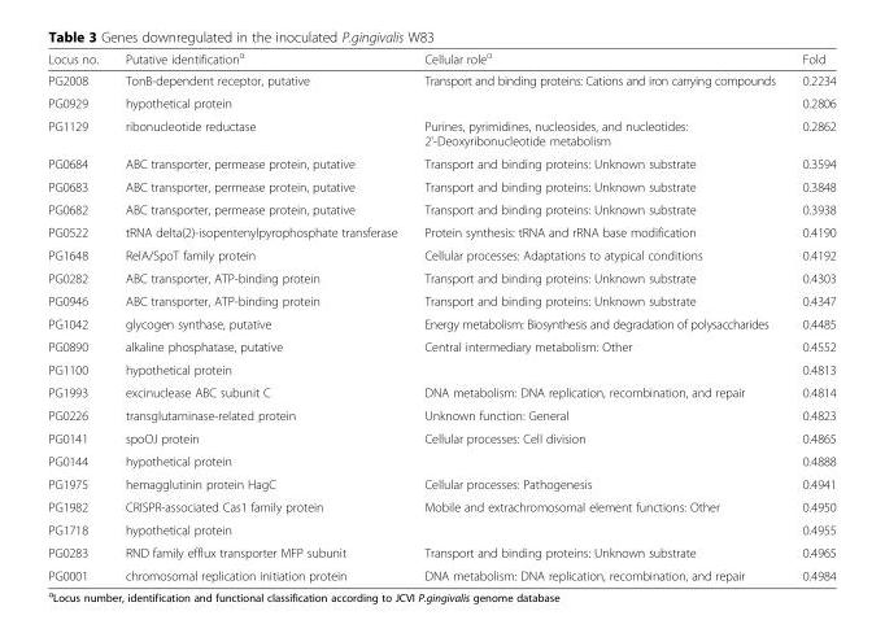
<table><thead><tr><td>Locus no.</td><td>Putative identification<sup>α</sup></td><td>Cellular role<sup>α</sup></td><td>Fold</td></tr></thead><tbody><tr><td>PG2008</td><td>TonB-dependent receptor, putative</td><td>Transport and binding proteins: Cations and iron carrying compounds</td><td>0.2234</td></tr><tr><td>PG0929</td><td>hypothetical protein</td><td></td><td>0.2806</td></tr><tr><td>PG1129</td><td>ribonucleotide reductase</td><td>Purines, pyrimidines, nucleosides, and nucleotides: 2&#x27;-Deoxyribonucleotide metabolism</td><td>0.2862</td></tr><tr><td>PG0684</td><td>ABC transporter, permease protein, putative</td><td>Transport and binding proteins: Unknown substrate</td><td>0.3594</td></tr><tr><td>PG0683</td><td>ABC transporter, permease protein, putative</td><td>Transport and binding proteins: Unknown substrate</td><td>0.3848</td></tr><tr><td>PG0682</td><td>ABC transporter, permease protein, putative</td><td>Transport and binding proteins: Unknown substrate</td><td>0.3938</td></tr><tr><td>PG0522</td><td>tRNA delta(2)-isopentenylpyrophosphate transferase</td><td>Protein synthesis: tRNA and rRNA base modification</td><td>0.4190</td></tr><tr><td>PG1648</td><td>RelA/SpoT family protein</td><td>Cellular processes: Adaptations to atypical conditions</td><td>0.4192</td></tr><tr><td>PG0282</td><td>ABC transporter, ATP-binding protein</td><td>Transport and binding proteins: Unknown substrate</td><td>0.4303</td></tr><tr><td>PG0946</td><td>ABC transporter, ATP-binding protein</td><td>Transport and binding proteins: Unknown substrate</td><td>0.4347</td></tr><tr><td>PG1042</td><td>glycogen synthase, putative</td><td>Energy metabolism: Biosynthesis and degradation of polysaccharides</td><td>0.4485</td></tr><tr><td>PG0890</td><td>alkaline phosphatase, putative</td><td>Central intermediary metabolism: Other</td><td>0.4552</td></tr><tr><td>PG1100</td><td>hypothetical protein</td><td></td><td>0.4813</td></tr><tr><td>PG1993</td><td>excinuclease ABC subunit C</td><td>DNA metabolism: DNA replication, recombination, and repair</td><td>0.4814</td></tr><tr><td>PG0226</td><td>transglutaminase-related protein</td><td>Unknown function: General</td><td>0.4823</td></tr><tr><td>PG0141</td><td>spoOJ protein</td><td>Cellular processes: Cell division</td><td>0.4865</td></tr><tr><td>PG0144</td><td>hypothetical protein</td><td></td><td>0.4888</td></tr><tr><td>PG1975</td><td>hemagglutinin protein HagC</td><td>Cellular processes: Pathogenesis</td><td>0.4941</td></tr><tr><td>PG1982</td><td>CRISPR-associated Cas1 family protein</td><td>Mobile and extrachromosomal element functions: Other</td><td>0.4950</td></tr><tr><td>PG1718</td><td>hypothetical protein</td><td></td><td>0.4955</td></tr><tr><td>PG0283</td><td>RND family efflux transporter MFP subunit</td><td>Transport and binding proteins: Unknown substrate</td><td>0.4965</td></tr><tr><td>PG0001</td><td>chromosomal replication initiation protein</td><td>DNA metabolism: DNA replication, recombination, and repair</td><td>0.4984</td></tr></tbody></table>